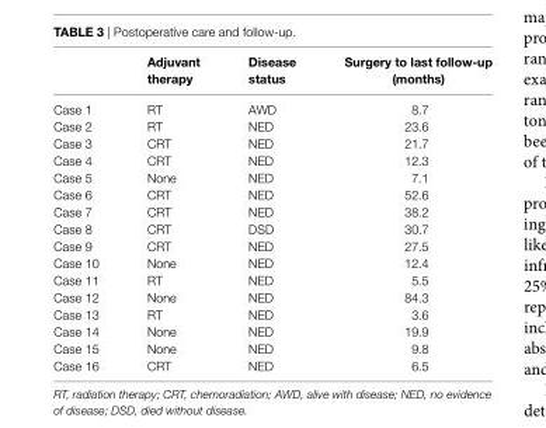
<table><thead><tr><td></td><td>adjuvant therapy</td><td>Disease status</td><td>surgery to last follow-up (months)</td></tr></thead><tbody><tr><td>Case 1</td><td>RT</td><td>AWD</td><td>8.7</td></tr><tr><td>Case 2</td><td>RT</td><td>NED</td><td>23.6</td></tr><tr><td>Case 3</td><td>CRT</td><td>NED</td><td>21.7</td></tr><tr><td>Case 4</td><td>CRT</td><td>NED</td><td>12.3</td></tr><tr><td>Case 5</td><td>None</td><td>NED</td><td>7.1</td></tr><tr><td>Case 6</td><td>CRT</td><td>NED</td><td>52.6</td></tr><tr><td>Case 7</td><td>CRT</td><td>NED</td><td>38.2</td></tr><tr><td>Case 8</td><td>CRT</td><td>DSD</td><td>30.7</td></tr><tr><td>Case 9</td><td>CRT</td><td>NED</td><td>27.5</td></tr><tr><td>Case 10</td><td>None</td><td>NED</td><td>12.4</td></tr><tr><td>Case 11</td><td>RT</td><td>NED</td><td>5.5</td></tr><tr><td>Case 12</td><td>None</td><td>NED</td><td>84.3</td></tr><tr><td>Case 13</td><td>RT</td><td>NED</td><td>3.6</td></tr><tr><td>Case 14</td><td>None</td><td>NED</td><td>19.9</td></tr><tr><td>Case 15</td><td>None</td><td>NED</td><td>9.8</td></tr><tr><td>Case 16</td><td>CRT</td><td>NED</td><td>6.5</td></tr></tbody></table>